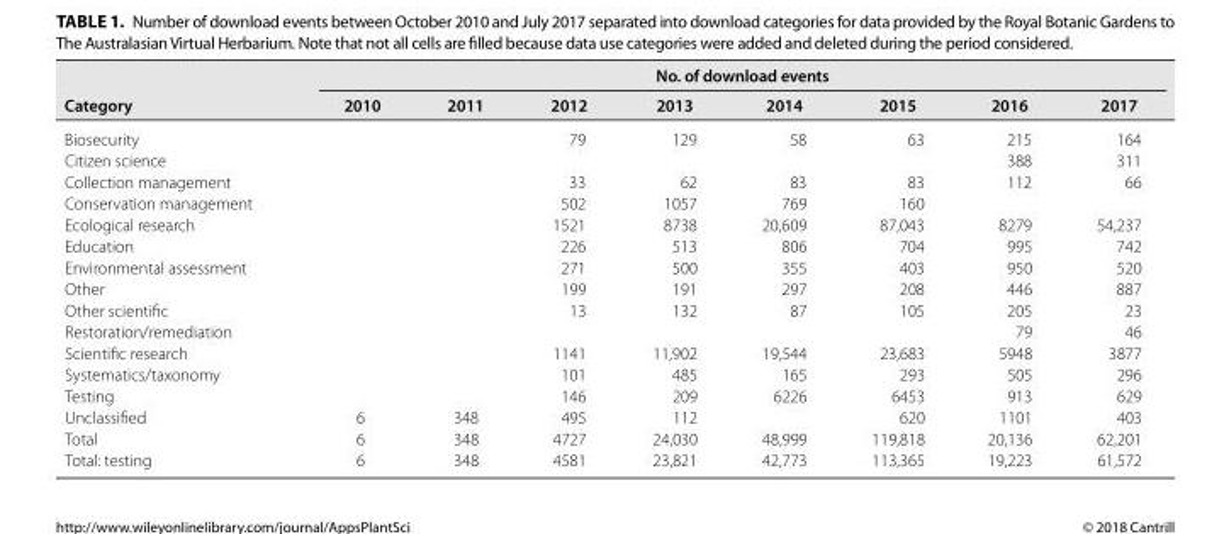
<table><thead><tr><td rowspan="2">Category</td><td colspan="8">No. of download events</td></tr><tr><td>2010</td><td>2011</td><td>2012</td><td>2013</td><td>2014</td><td>2015</td><td>2016</td><td>2017</td></tr></thead><tbody><tr><td>Biosecurity</td><td></td><td></td><td>79</td><td>129</td><td>58</td><td>63</td><td>215</td><td>164</td></tr><tr><td>Citizen science</td><td></td><td></td><td></td><td></td><td></td><td></td><td>388</td><td>311</td></tr><tr><td>Collection management</td><td></td><td></td><td>33</td><td>62</td><td>83</td><td>83</td><td>112</td><td>66</td></tr><tr><td>Conservation management</td><td></td><td></td><td>502</td><td>1057</td><td>769</td><td>160</td><td></td><td></td></tr><tr><td>Ecological research</td><td></td><td></td><td>1521</td><td>8738</td><td>20,609</td><td>87,043</td><td>8279</td><td>54,237</td></tr><tr><td>Education</td><td></td><td></td><td>226</td><td>513</td><td>806</td><td>704</td><td>995</td><td>742</td></tr><tr><td>Environmental assessment</td><td></td><td></td><td>271</td><td>500</td><td>355</td><td>403</td><td>950</td><td>520</td></tr><tr><td>Other</td><td></td><td></td><td>199</td><td>191</td><td>297</td><td>208</td><td>446</td><td>887</td></tr><tr><td>Other scientific</td><td></td><td></td><td>13</td><td>132</td><td>87</td><td>105</td><td>205</td><td>23</td></tr><tr><td>Restoration/remediation</td><td></td><td></td><td></td><td></td><td></td><td></td><td>79</td><td>46</td></tr><tr><td>Scientific research</td><td></td><td></td><td>1141</td><td>11,902</td><td>19,544</td><td>23,683</td><td>5948</td><td>3877</td></tr><tr><td>Systematics/taxonomy</td><td></td><td></td><td>101</td><td>485</td><td>165</td><td>293</td><td>505</td><td>296</td></tr><tr><td>Testing</td><td></td><td></td><td>146</td><td>209</td><td>6226</td><td>6453</td><td>913</td><td>629</td></tr><tr><td>Unclassified</td><td>6</td><td>348</td><td>495</td><td>112</td><td></td><td>620</td><td>1101</td><td>403</td></tr><tr><td>Total</td><td>6</td><td>348</td><td>4727</td><td>24,030</td><td>48,999</td><td>119,818</td><td>20,136</td><td>62,201</td></tr><tr><td>Total: testing</td><td>6</td><td>348</td><td>4581</td><td>23,821</td><td>42,773</td><td>113,365</td><td>19,223</td><td>61,572</td></tr></tbody></table>